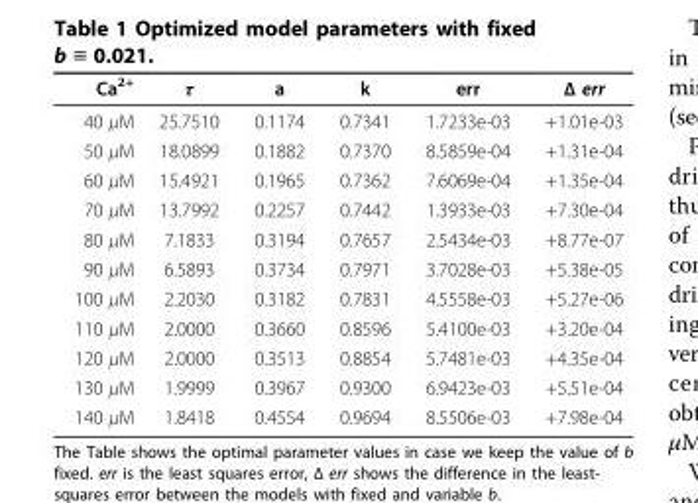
<table><thead><tr><td>Ca<sup>2+</sup></td><td>τ</td><td>a</td><td>k</td><td>err</td><td>Δ err</td></tr></thead><tbody><tr><td>40 μM</td><td>25.7510</td><td>0.1174</td><td>0.7341</td><td>1.7233e-03</td><td>+1.01e-03</td></tr><tr><td>50 μM</td><td>18.0899</td><td>0.1882</td><td>0.7370</td><td>8.5859e-04</td><td>+1.31e-04</td></tr><tr><td>60 μM</td><td>15.4921</td><td>0.1965</td><td>0.7362</td><td>7.6069e-04</td><td>+1.35e-04</td></tr><tr><td>70 μM</td><td>13.7992</td><td>0.2257</td><td>0.7442</td><td>1.3933e-03</td><td>+7.30e-04</td></tr><tr><td>80 μM</td><td>7.1833</td><td>0.3194</td><td>0.7657</td><td>2.5434e-03</td><td>+8.77e-07</td></tr><tr><td>90 μM</td><td>6.5893</td><td>0.3734</td><td>0.7971</td><td>3.7028e-03</td><td>+5.38e-05</td></tr><tr><td>100 μM</td><td>2.2030</td><td>0.3182</td><td>0.7831</td><td>4.5558e-03</td><td>+5.27e-06</td></tr><tr><td>110 μM</td><td>2.0000</td><td>0.3660</td><td>0.8596</td><td>5.4100e-03</td><td>+3.20e-04</td></tr><tr><td>120 μM</td><td>2.0000</td><td>0.3513</td><td>0.8854</td><td>5.7481e-03</td><td>+4.35e-04</td></tr><tr><td>130 μM</td><td>1.9999</td><td>0.3967</td><td>0.9300</td><td>6.9423e-03</td><td>+5.51e-04</td></tr><tr><td>140 μM</td><td>1.8418</td><td>0.4554</td><td>0.9694</td><td>8.5506e-03</td><td>+7.98e-04</td></tr></tbody></table>